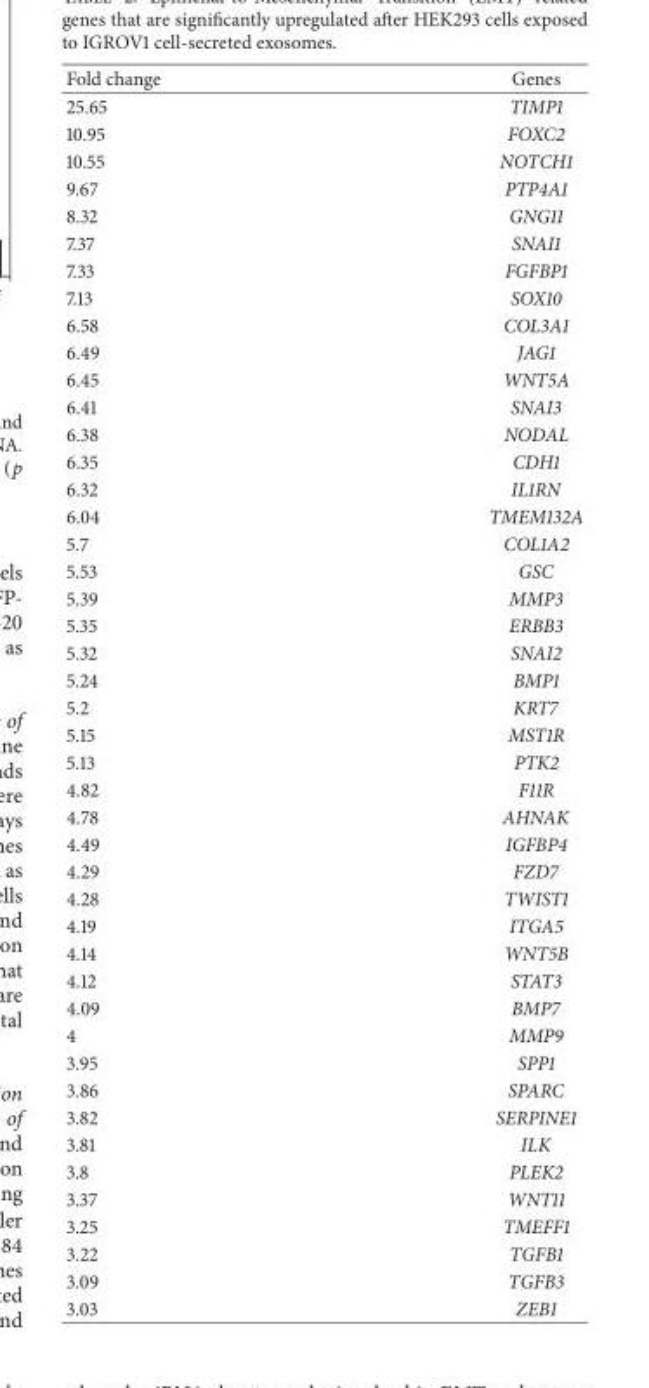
<table><thead><tr><td>Fold change</td><td>Genes</td></tr></thead><tbody><tr><td>25.65</td><td>TIMP1</td></tr><tr><td>10.95</td><td>FOXC2</td></tr><tr><td>10.55</td><td>NOTCH1</td></tr><tr><td>9.67</td><td>PTP4A1</td></tr><tr><td>8.32</td><td>GNG11</td></tr><tr><td>7.37</td><td>SNAI1</td></tr><tr><td>7.33</td><td>FGFBP1</td></tr><tr><td>7.13</td><td>SOX10</td></tr><tr><td>6.58</td><td>COL3A1</td></tr><tr><td>6.49</td><td>JAG1</td></tr><tr><td>6.45</td><td>WNT5A</td></tr><tr><td>6.41</td><td>SNAI3</td></tr><tr><td>6.38</td><td>NODAL</td></tr><tr><td>6.35</td><td>CDH1</td></tr><tr><td>6.32</td><td>IL1RN</td></tr><tr><td>6.04</td><td>TMEM132A</td></tr><tr><td>5.7</td><td>COL1A2</td></tr><tr><td>5.53</td><td>GSC</td></tr><tr><td>5.39</td><td>MMP3</td></tr><tr><td>5.35</td><td>ERBB3</td></tr><tr><td>5.32</td><td>SNAI2</td></tr><tr><td>5.24</td><td>BMP1</td></tr><tr><td>5.2</td><td>KRT7</td></tr><tr><td>5.15</td><td>MST1R</td></tr><tr><td>5.13</td><td>PTK2</td></tr><tr><td>4.82</td><td>F11R</td></tr><tr><td>4.78</td><td>AHNAK</td></tr><tr><td>4.49</td><td>IGFBP4</td></tr><tr><td>4.29</td><td>FZD7</td></tr><tr><td>4.28</td><td>TWIST1</td></tr><tr><td>4.19</td><td>ITGA5</td></tr><tr><td>4.14</td><td>WNT5B</td></tr><tr><td>4.12</td><td>STAT3</td></tr><tr><td>4.09</td><td>BMP7</td></tr><tr><td>4</td><td>MMP9</td></tr><tr><td>3.95</td><td>SPP1</td></tr><tr><td>3.86</td><td>SPARC</td></tr><tr><td>3.82</td><td>SERPINE1</td></tr><tr><td>3.81</td><td>ILK</td></tr><tr><td>3.8</td><td>PLEK2</td></tr><tr><td>3.37</td><td>WNT11</td></tr><tr><td>3.25</td><td>TMEFF1</td></tr><tr><td>3.22</td><td>TGFB1</td></tr><tr><td>3.09</td><td>TGFB3</td></tr><tr><td>3.03</td><td>ZEB1</td></tr></tbody></table>